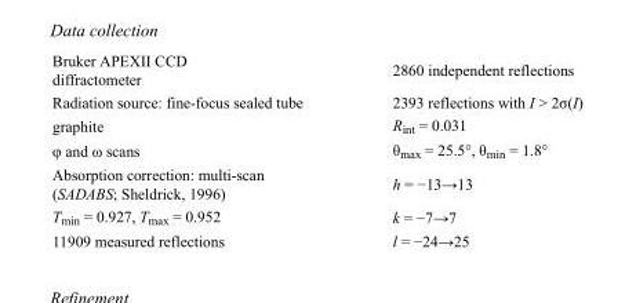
<table><tbody><tr><td>Bruker APEXII CCD diffractometer</td><td>2860 independent reflections</td></tr><tr><td>Radiation source: fine-focus sealed tube</td><td>2393 reflections with I &gt; 2σ(I)</td></tr><tr><td>graphite</td><td>R<sub>int</sub> = 0.031</td></tr><tr><td>φ and ω scans</td><td>θ<sub>max</sub> = 25.5°, θ<sub>min</sub> = 1.8°</td></tr><tr><td>Absorption correction: multi-scan (SADABS; Sheldrick, 1996)</td><td>h = −13→13</td></tr><tr><td>T<sub>min</sub> = 0.927, T<sub>max</sub> = 0.952</td><td>k = −7→7</td></tr><tr><td>11909 measured reflections</td><td>l = −24→25</td></tr></tbody></table>